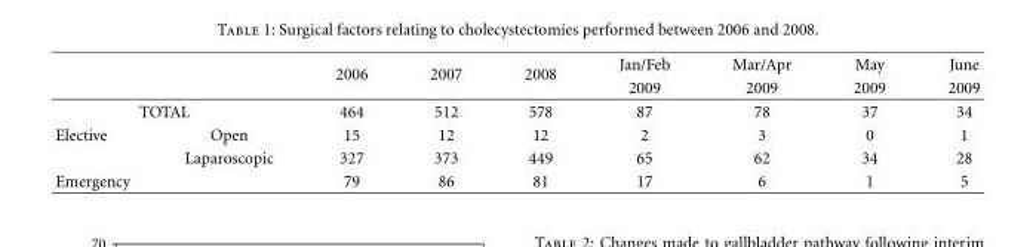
<table><thead><tr><td rowspan="2"></td><td rowspan="2"></td><td rowspan="2">2006</td><td rowspan="2">2007</td><td rowspan="2">2008</td><td rowspan="2">Jan/Feb 2009</td><td rowspan="2">Mar/Apr 2009</td><td rowspan="2">May 2009</td><td rowspan="2">June 2009</td></tr><tr></tr></thead><tbody><tr><td colspan="2">TOTAL</td><td>464</td><td>512</td><td>578</td><td>87</td><td>78</td><td>37</td><td>34</td></tr><tr><td rowspan="2">Elective</td><td>Open</td><td>15</td><td>12</td><td>12</td><td>2</td><td>3</td><td>0</td><td>1</td></tr><tr><td>Laparoscopic</td><td>327</td><td>373</td><td>449</td><td>65</td><td>62</td><td>34</td><td>28</td></tr><tr><td>Emergency</td><td></td><td>79</td><td>86</td><td>81</td><td>17</td><td>6</td><td>1</td><td>5</td></tr></tbody></table>